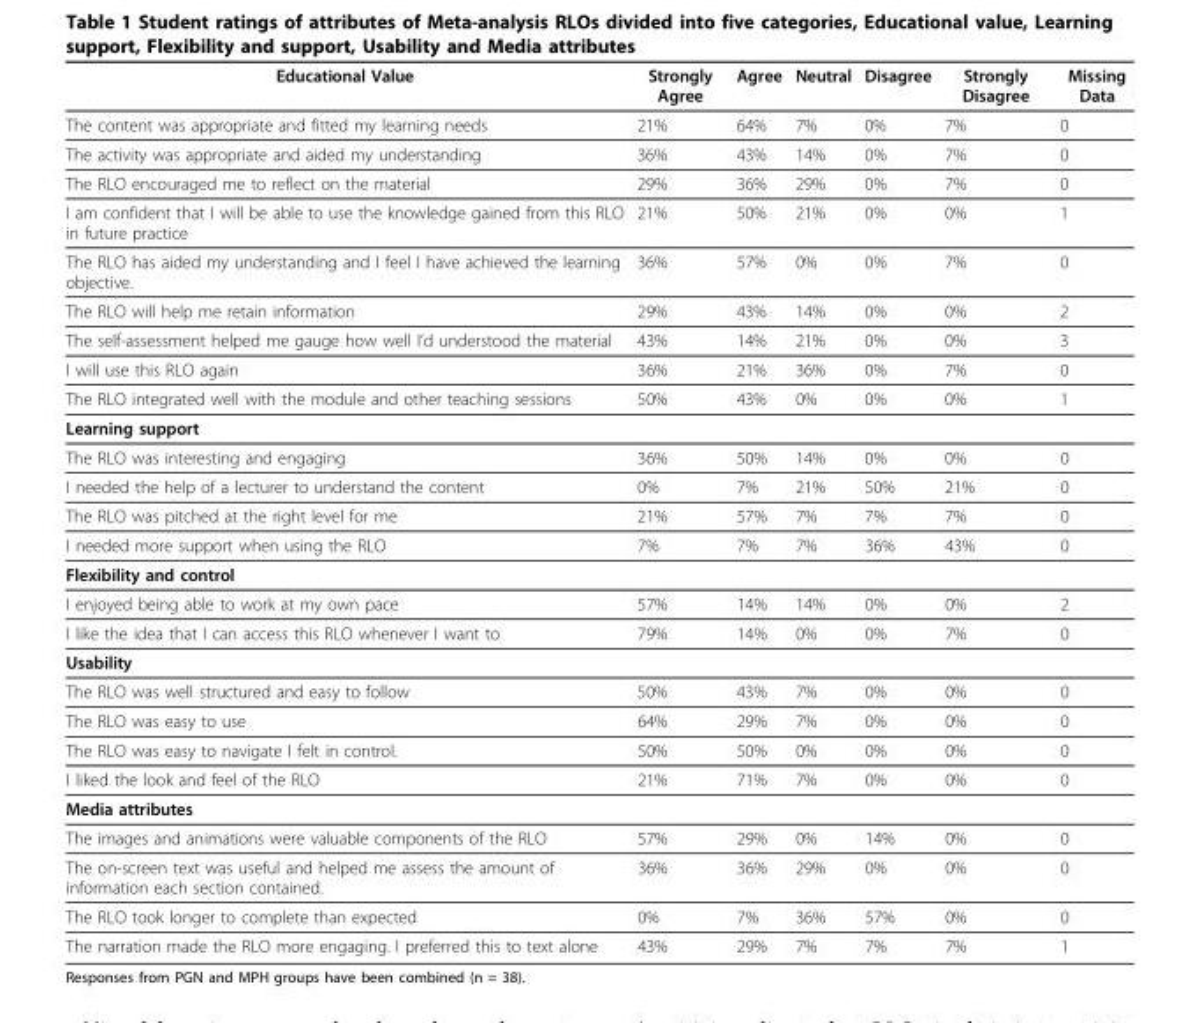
<table><thead><tr><td>Educational Value</td><td>Strongly Agree</td><td>Agree</td><td>Neutral</td><td>Disagree</td><td>Strongly Disagree</td><td>Missing Data</td></tr></thead><tbody><tr><td>The content was appropriate and fitted my learning needs</td><td>21%</td><td>64%</td><td>7%</td><td>0%</td><td>7%</td><td>0</td></tr><tr><td>The activity was appropriate and aided my understanding</td><td>36%</td><td>43%</td><td>14%</td><td>0%</td><td>7%</td><td>0</td></tr><tr><td>The RLO encouraged me to reflect on the material</td><td>29%</td><td>36%</td><td>29%</td><td>0%</td><td>7%</td><td>0</td></tr><tr><td>I am confident that I will be able to use the knowledge gained from this RLO in future practice</td><td>21%</td><td>50%</td><td>21%</td><td>0%</td><td>0%</td><td>1</td></tr><tr><td>The RLO has aided my understanding and I feel I have achieved the learning objective.</td><td>36%</td><td>57%</td><td>0%</td><td>0%</td><td>7%</td><td>0</td></tr><tr><td>The RLO will help me retain information</td><td>29%</td><td>43%</td><td>14%</td><td>0%</td><td>0%</td><td>2</td></tr><tr><td>The self-assessment helped me gauge how well I’d understood the material</td><td>43%</td><td>14%</td><td>21%</td><td>0%</td><td>0%</td><td>3</td></tr><tr><td>I will use this RLO again</td><td>36%</td><td>21%</td><td>36%</td><td>0%</td><td>7%</td><td>0</td></tr><tr><td>The RLO integrated well with the module and other teaching sessions</td><td>50%</td><td>43%</td><td>0%</td><td>0%</td><td>0%</td><td>1</td></tr><tr><td colspan="7">Learning support</td></tr><tr><td>The RLO was interesting and engaging</td><td>36%</td><td>50%</td><td>14%</td><td>0%</td><td>0%</td><td>0</td></tr><tr><td>I needed the help of a lecturer to understand the content</td><td>0%</td><td>7%</td><td>21%</td><td>50%</td><td>21%</td><td>0</td></tr><tr><td>The RLO was pitched at the right level for me</td><td>21%</td><td>57%</td><td>7%</td><td>7%</td><td>7%</td><td>0</td></tr><tr><td>I needed more support when using the RLO</td><td>7%</td><td>7%</td><td>7%</td><td>36%</td><td>43%</td><td>0</td></tr><tr><td colspan="7">Flexibility and control</td></tr><tr><td>I enjoyed being able to work at my own pace</td><td>57%</td><td>14%</td><td>14%</td><td>0%</td><td>0%</td><td>2</td></tr><tr><td>I like the idea that I can access this RLO whenever I want to</td><td>79%</td><td>14%</td><td>0%</td><td>0%</td><td>7%</td><td>0</td></tr><tr><td colspan="7">Usability</td></tr><tr><td>The RLO was well structured and easy to follow</td><td>50%</td><td>43%</td><td>7%</td><td>0%</td><td>0%</td><td>0</td></tr><tr><td>The RLO was easy to use</td><td>64%</td><td>29%</td><td>7%</td><td>0%</td><td>0%</td><td>0</td></tr><tr><td>The RLO was easy to navigate I felt in control.</td><td>50%</td><td>50%</td><td>0%</td><td>0%</td><td>0%</td><td>0</td></tr><tr><td>I liked the look and feel of the RLO</td><td>21%</td><td>71%</td><td>7%</td><td>0%</td><td>0%</td><td>0</td></tr><tr><td colspan="7">Media attributes</td></tr><tr><td>The images and animations were valuable components of the RLO</td><td>57%</td><td>29%</td><td>0%</td><td>14%</td><td>0%</td><td>0</td></tr><tr><td>The on-screen text was useful and helped me assess the amount of information each section contained.</td><td>36%</td><td>36%</td><td>29%</td><td>0%</td><td>0%</td><td>0</td></tr><tr><td>The RLO took longer to complete than expected</td><td>0%</td><td>7%</td><td>36%</td><td>57%</td><td>0%</td><td>0</td></tr><tr><td>The narration made the RLO more engaging. I preferred this to text alone</td><td>43%</td><td>29%</td><td>7%</td><td>7%</td><td>7%</td><td>1</td></tr></tbody></table>